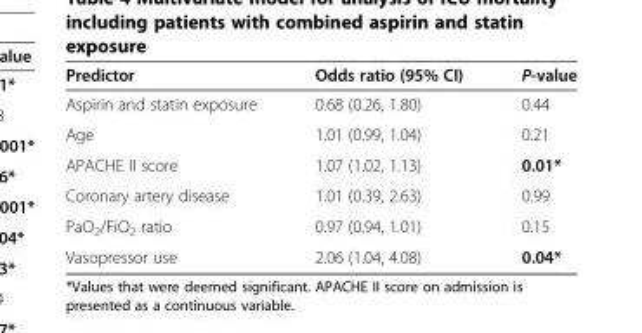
<table><thead><tr><td>Predictor</td><td>Odds ratio (95% CI)</td><td>P-value</td></tr></thead><tbody><tr><td>Aspirin and statin exposure</td><td>0.68 (0.26, 1.80)</td><td>0.44</td></tr><tr><td>Age</td><td>1.01 (0.99, 1.04)</td><td>0.21</td></tr><tr><td>APACHE II score</td><td>1.07 (1.02, 1.13)</td><td>0.01*</td></tr><tr><td>Coronary artery disease</td><td>1.01 (0.39, 2.63)</td><td>0.99</td></tr><tr><td>PaO<sub>2</sub>/FiO<sub>2</sub> ratio</td><td>0.97 (0.94, 1.01)</td><td>0.15</td></tr><tr><td>Vasopressor use</td><td>2.06 (1.04, 4.08)</td><td>0.04*</td></tr></tbody></table>